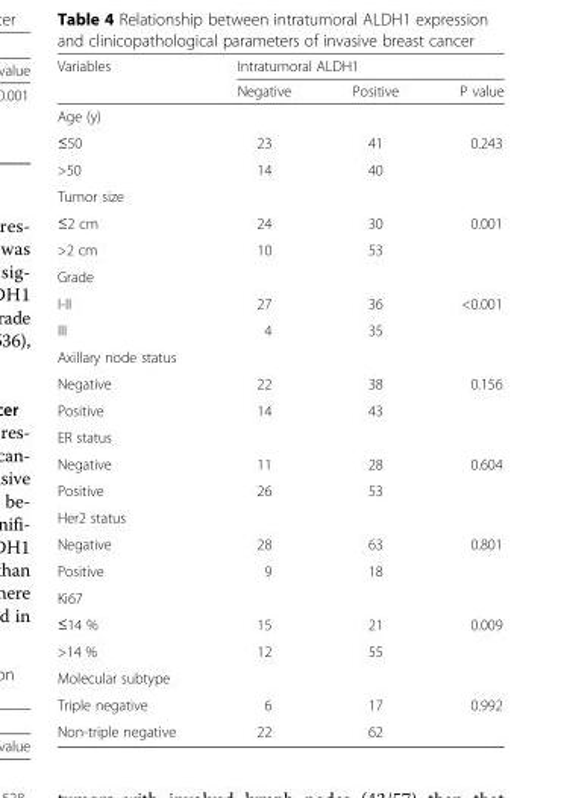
<table><thead><tr><td rowspan="2">Variables</td><td colspan="3">Intratumoral ALDH1</td></tr><tr><td>Negative</td><td>Positive</td><td>P value</td></tr></thead><tbody><tr><td colspan="4">Age (y)</td></tr><tr><td>≤50</td><td>23</td><td>41</td><td>0.243</td></tr><tr><td>&gt;50</td><td>14</td><td>40</td><td></td></tr><tr><td colspan="4">Tumor size</td></tr><tr><td>≤2 cm</td><td>24</td><td>30</td><td>0.001</td></tr><tr><td>&gt;2 cm</td><td>10</td><td>53</td><td></td></tr><tr><td colspan="4">Grade</td></tr><tr><td>I-II</td><td>27</td><td>36</td><td>&lt;0.001</td></tr><tr><td>III</td><td>4</td><td>35</td><td></td></tr><tr><td colspan="4">Axillary node status</td></tr><tr><td>Negative</td><td>22</td><td>38</td><td>0.156</td></tr><tr><td>Positive</td><td>14</td><td>43</td><td></td></tr><tr><td colspan="4">ER status</td></tr><tr><td>Negative</td><td>11</td><td>28</td><td>0.604</td></tr><tr><td>Positive</td><td>26</td><td>53</td><td></td></tr><tr><td colspan="4">Her2 status</td></tr><tr><td>Negative</td><td>28</td><td>63</td><td>0.801</td></tr><tr><td>Positive</td><td>9</td><td>18</td><td></td></tr><tr><td colspan="4">Ki67</td></tr><tr><td>≤14 %</td><td>15</td><td>21</td><td>0.009</td></tr><tr><td>&gt;14 %</td><td>12</td><td>55</td><td></td></tr><tr><td colspan="4">Molecular subtype</td></tr><tr><td>Triple negative</td><td>6</td><td>17</td><td>0.992</td></tr><tr><td>Non-triple negative</td><td>22</td><td>62</td><td></td></tr></tbody></table>